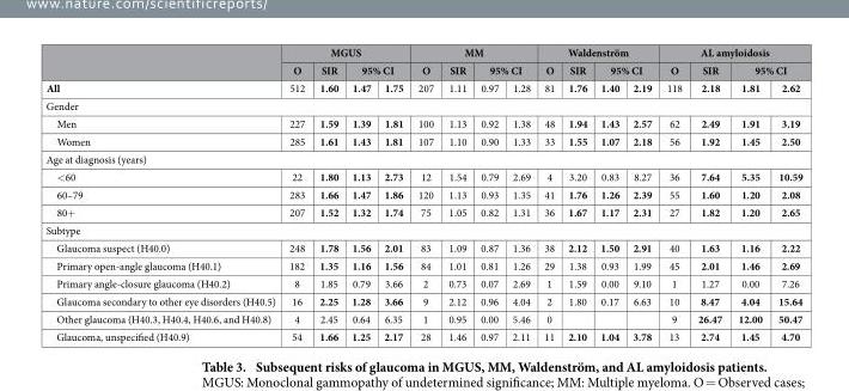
<table><thead><tr><td rowspan="3">All</td><td colspan="4">MGUS</td><td colspan="4">MM</td><td colspan="4">Waldenström</td><td colspan="4">AL amyloidosis</td></tr><tr><td rowspan="2">O 512</td><td rowspan="2">SIR 1.60</td><td colspan="2">95% CI</td><td rowspan="2">O 207</td><td rowspan="2">SIR 1.11</td><td colspan="2">95% CI</td><td rowspan="2">O 81</td><td rowspan="2">SIR 1.76</td><td colspan="2">95% CI</td><td rowspan="2">O 118</td><td rowspan="2">SIR 2.18</td><td colspan="2">95% CI</td></tr><tr><td>1.47</td><td>1.75</td><td>0.97</td><td>1.28</td><td>1.40</td><td>2.19</td><td>1.81</td><td>2.62</td></tr></thead><tbody><tr><td colspan="17">Gender</td></tr><tr><td>Men</td><td>227</td><td>1.59</td><td>1.39</td><td>1.81</td><td>100</td><td>1.13</td><td>0.92</td><td>1.38</td><td>48</td><td>1.94</td><td>1.43</td><td>2.57</td><td>62</td><td>2.49</td><td>1.91</td><td>3.19</td></tr><tr><td>Women</td><td>285</td><td>1.61</td><td>1.43</td><td>1.81</td><td>107</td><td>1.10</td><td>0.90</td><td>1.33</td><td>33</td><td>1.55</td><td>1.07</td><td>2.18</td><td>56</td><td>1.92</td><td>1.45</td><td>2.50</td></tr><tr><td colspan="17">Age at diagnosis (years)</td></tr><tr><td>&lt; 60</td><td>22</td><td>1.80</td><td>1.13</td><td>2.73</td><td>12</td><td>1.54</td><td>0.79</td><td>2.69</td><td>4</td><td>3.20</td><td>0.83</td><td>8.27</td><td>36</td><td>7.64</td><td>5.35</td><td>10.59</td></tr><tr><td>60–79</td><td>283</td><td>1.66</td><td>1.47</td><td>1.86</td><td>120</td><td>1.13</td><td>0.93</td><td>1.35</td><td>41</td><td>1.76</td><td>1.26</td><td>2.39</td><td>55</td><td>1.60</td><td>1.20</td><td>2.08</td></tr><tr><td>80+</td><td>207</td><td>1.52</td><td>1.32</td><td>1.74</td><td>75</td><td>1.05</td><td>0.82</td><td>1.31</td><td>36</td><td>1.67</td><td>1.17</td><td>2.31</td><td>27</td><td>1.82</td><td>1.20</td><td>2.65</td></tr><tr><td colspan="17">Subtype</td></tr><tr><td>Glaucoma suspect (H40.0)</td><td>248</td><td>1.78</td><td>1.56</td><td>2.01</td><td>83</td><td>1.09</td><td>0.87</td><td>1.36</td><td>38</td><td>2.12</td><td>1.50</td><td>2.91</td><td>40</td><td>1.63</td><td>1.16</td><td>2.22</td></tr><tr><td>Primary open-angle glaucoma (H40.1)</td><td>182</td><td>1.35</td><td>1.16</td><td>1.56</td><td>84</td><td>1.01</td><td>0.81</td><td>1.26</td><td>29</td><td>1.38</td><td>0.93</td><td>1.99</td><td>45</td><td>2.01</td><td>1.46</td><td>2.69</td></tr><tr><td>Primary angle-closure glaucoma (H40.2)</td><td>8</td><td>1.85</td><td>0.79</td><td>3.66</td><td>2</td><td>0.73</td><td>0.07</td><td>2.69</td><td>1</td><td>1.59</td><td>0.00</td><td>9.10</td><td>1</td><td>1.27</td><td>0.00</td><td>7.26</td></tr><tr><td>Glaucoma secondary to other eye disorders (H40.5)</td><td>16</td><td>2.25</td><td>1.28</td><td>3.66</td><td>9</td><td>2.12</td><td>0.96</td><td>4.04</td><td>2</td><td>1.80</td><td>0.17</td><td>6.63</td><td>10</td><td>8.47</td><td>4.04</td><td>15.64</td></tr><tr><td>Other glaucoma (H40.3, H40.4, H40.6, and H40.8)</td><td>4</td><td>2.45</td><td>0.64</td><td>6.35</td><td>1</td><td>0.95</td><td>0.00</td><td>5.46</td><td>0</td><td></td><td></td><td></td><td>9</td><td>26.47</td><td>12.00</td><td>50.47</td></tr><tr><td>Glaucoma, unspecified (H40.9)</td><td>54</td><td>1.66</td><td>1.25</td><td>2.17</td><td>28</td><td>1.46</td><td>0.97</td><td>2.11</td><td>11</td><td>2.10</td><td>1.04</td><td>3.78</td><td>13</td><td>2.74</td><td>1.45</td><td>4.70</td></tr></tbody></table>